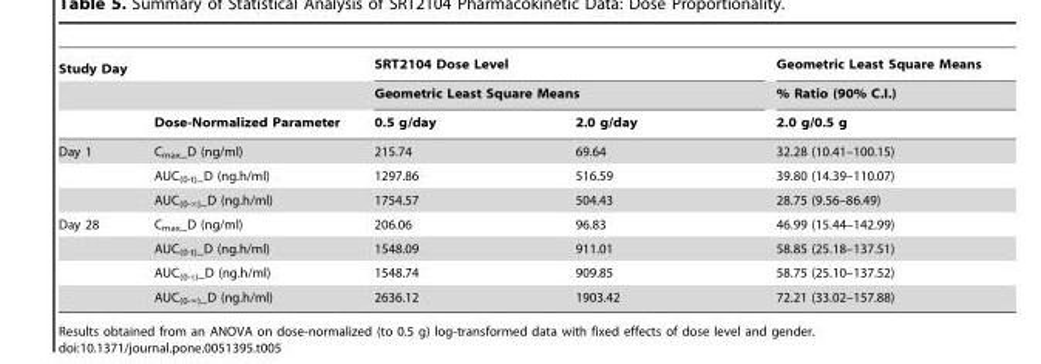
<table><thead><tr><td rowspan="3">Study Day</td><td rowspan="3">Dose-Normalized Parameter</td><td rowspan="2" colspan="2">SRT2104 Dose Level Geometric Least Square Means</td><td rowspan="3">Geometric Least Square Means % Ratio (90% C.I.) 2.0 g/0.5 g</td></tr><tr></tr><tr><td>0.5 g/day</td><td>2.0 g/day</td></tr></thead><tbody><tr><td rowspan="3">Day 1</td><td>Cmax_D (ng/ml)</td><td>215.74</td><td>69.64</td><td>32.28 (10.41–100.15)</td></tr><tr><td>AUC(0-t)_D (ng.h/ml)</td><td>1297.86</td><td>516.59</td><td>39.80 (14.39–110.07)</td></tr><tr><td>AUC(0-‘)_D (ng.h/ml)</td><td>1754.57</td><td>504.43</td><td>28.75 (9.56–86.49)</td></tr><tr><td rowspan="4">Day 28</td><td>Cmax_D (ng/ml)</td><td>206.06</td><td>96.83</td><td>46.99 (15.44–142.99)</td></tr><tr><td>AUC(0-t)_D (ng.h/ml)</td><td>1548.09</td><td>911.01</td><td>58.85 (25.18–137.51)</td></tr><tr><td>AUC(0-τ)_D (ng.h/ml)</td><td>1548.74</td><td>909.85</td><td>58.75 (25.10–137.52)</td></tr><tr><td>AUC(0-‘)_D (ng.h/ml)</td><td>2636.12</td><td>1903.42</td><td>72.21 (33.02–157.88)</td></tr></tbody></table>